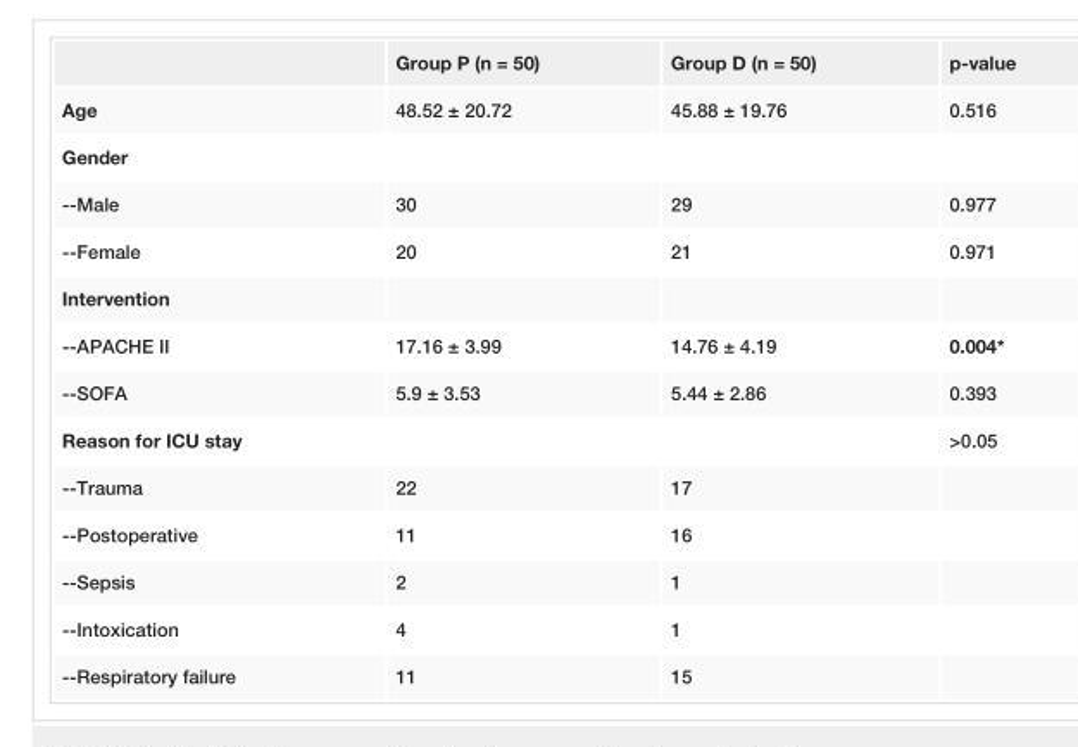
<table><thead><tr><td></td><td>Group P (n = 50)</td><td>Group D (n = 50)</td><td>p-value</td></tr></thead><tbody><tr><td>Age</td><td>48.52 ± 20.72</td><td>45.88 ± 19.76</td><td>0.516</td></tr><tr><td colspan="4">Gender</td></tr><tr><td>--Male</td><td>30</td><td>29</td><td>0.977</td></tr><tr><td>--Female</td><td>20</td><td>21</td><td>0.971</td></tr><tr><td colspan="4">Intervention</td></tr><tr><td>--APACHE II</td><td>17.16 ± 3.99</td><td>14.76 ± 4.19</td><td>0.004*</td></tr><tr><td>--SOFA</td><td>5.9 ± 3.53</td><td>5.44 ± 2.86</td><td>0.393</td></tr><tr><td>Reason for ICU stay</td><td></td><td></td><td>&gt;0.05</td></tr><tr><td>--Trauma</td><td>22</td><td>17</td><td></td></tr><tr><td>--Postoperative</td><td>11</td><td>16</td><td></td></tr><tr><td>--Sepsis</td><td>2</td><td>1</td><td></td></tr><tr><td>--Intoxication</td><td>4</td><td>1</td><td></td></tr><tr><td>--Respiratory failure</td><td>11</td><td>15</td><td></td></tr></tbody></table>